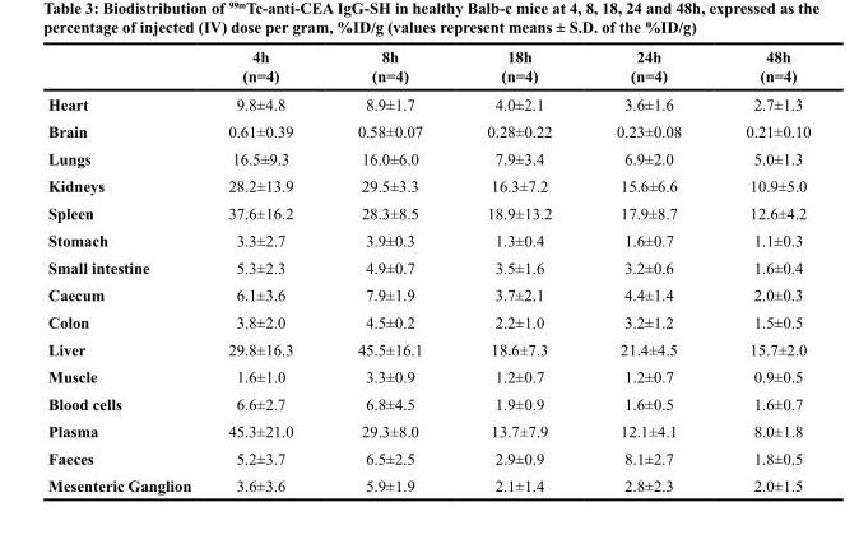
<table><thead><tr><td rowspan="2"></td><td rowspan="2">4h (n=4)</td><td rowspan="2">8h (n=4)</td><td rowspan="2">18h (n=4)</td><td rowspan="2">24h (n=4)</td><td rowspan="2">48h (n=4)</td></tr><tr></tr></thead><tbody><tr><td>Heart</td><td>9.8±4.8</td><td>8.9±1.7</td><td>4.0±2.1</td><td>3.6±1.6</td><td>2.7±1.3</td></tr><tr><td>Brain</td><td>0.61±0.39</td><td>0.58±0.07</td><td>0.28±0.22</td><td>0.23±0.08</td><td>0.21±0.10</td></tr><tr><td>Lungs</td><td>16.5±9.3</td><td>16.0±6.0</td><td>7.9±3.4</td><td>6.9±2.0</td><td>5.0±1.3</td></tr><tr><td>Kidneys</td><td>28.2±13.9</td><td>29.5±3.3</td><td>16.3±7.2</td><td>15.6±6.6</td><td>10.9±5.0</td></tr><tr><td>Spleen</td><td>37.6±16.2</td><td>28.3±8.5</td><td>18.9±13.2</td><td>17.9±8.7</td><td>12.6±4.2</td></tr><tr><td>Stomach</td><td>3.3±2.7</td><td>3.9±0.3</td><td>1.3±0.4</td><td>1.6±0.7</td><td>1.1±0.3</td></tr><tr><td>Small intestine</td><td>5.3±2.3</td><td>4.9±0.7</td><td>3.5±1.6</td><td>3.2±0.6</td><td>1.6±0.4</td></tr><tr><td>Caecum</td><td>6.1±3.6</td><td>7.9±1.9</td><td>3.7±2.1</td><td>4.4±1.4</td><td>2.0±0.3</td></tr><tr><td>Colon</td><td>3.8±2.0</td><td>4.5±0.2</td><td>2.2±1.0</td><td>3.2±1.2</td><td>1.5±0.5</td></tr><tr><td>Liver</td><td>29.8±16.3</td><td>45.5±16.1</td><td>18.6±7.3</td><td>21.4±4.5</td><td>15.7±2.0</td></tr><tr><td>Muscle</td><td>1.6±1.0</td><td>3.3±0.9</td><td>1.2±0.7</td><td>1.2±0.7</td><td>0.9±0.5</td></tr><tr><td>Blood cells</td><td>6.6±2.7</td><td>6.8±4.5</td><td>1.9±0.9</td><td>1.6±0.5</td><td>1.6±0.7</td></tr><tr><td>Plasma</td><td>45.3±21.0</td><td>29.3±8.0</td><td>13.7±7.9</td><td>12.1±4.1</td><td>8.0±1.8</td></tr><tr><td>Faeces</td><td>5.2±3.7</td><td>6.5±2.5</td><td>2.9±0.9</td><td>8.1±2.7</td><td>1.8±0.5</td></tr><tr><td>Mesenteric Ganglion</td><td>3.6±3.6</td><td>5.9±1.9</td><td>2.1±1.4</td><td>2.8±2.3</td><td>2.0±1.5</td></tr></tbody></table>